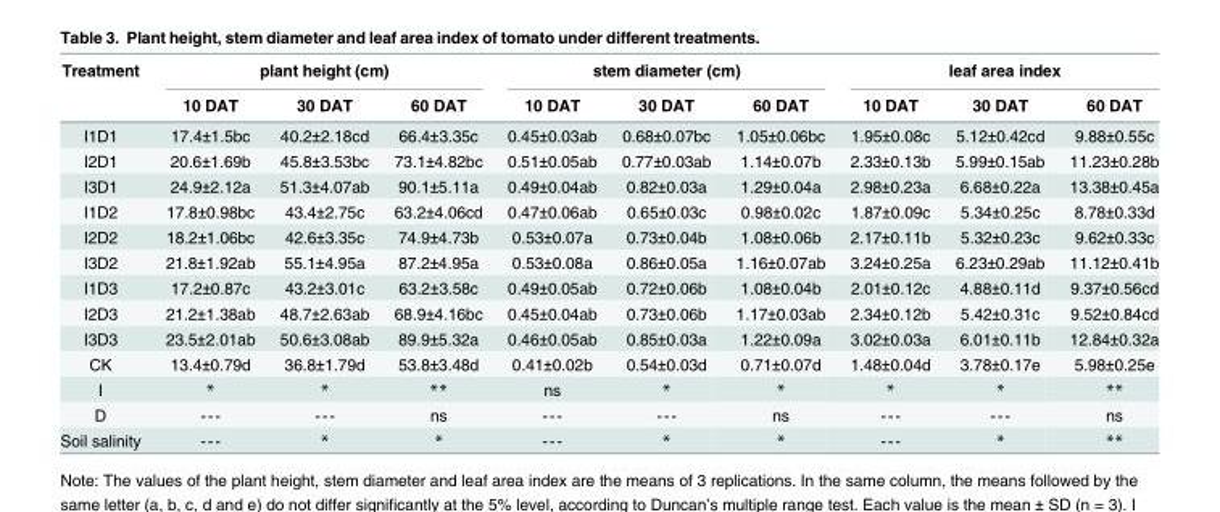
<table><thead><tr><td rowspan="2">Treatment</td><td colspan="3">plant height (cm)</td><td colspan="3">stem diameter (cm)</td><td colspan="3">leaf area index</td></tr><tr><td>10 DAT</td><td>30 DAT</td><td>60 DAT</td><td>10 DAT</td><td>30 DAT</td><td>60 DAT</td><td>10 DAT</td><td>30 DAT</td><td>60 DAT</td></tr></thead><tbody><tr><td>I1D1</td><td>17.4±1.5bc</td><td>40.2±2.18cd</td><td>66.4±3.35c</td><td>0.45±0.03ab</td><td>0.68±0.07bc</td><td>1.05±0.06bc</td><td>1.95±0.08c</td><td>5.12±0.42cd</td><td>9.88±0.55c</td></tr><tr><td>I2D1</td><td>20.6±1.69b</td><td>45.8±3.53bc</td><td>73.1±4.82bc</td><td>0.51±0.05ab</td><td>0.77±0.03ab</td><td>1.14±0.07b</td><td>2.33±0.13b</td><td>5.99±0.15ab</td><td>11.23±0.28b</td></tr><tr><td>I3D1</td><td>24.9±2.12a</td><td>51.3±4.07ab</td><td>90.1±5.11a</td><td>0.49±0.04ab</td><td>0.82±0.03a</td><td>1.29±0.04a</td><td>2.98±0.23a</td><td>6.68±0.22a</td><td>13.38±0.45a</td></tr><tr><td>I1D2</td><td>17.8±0.98bc</td><td>43.4±2.75c</td><td>63.2±4.06cd</td><td>0.47±0.06ab</td><td>0.65±0.03c</td><td>0.98±0.02c</td><td>1.87±0.09c</td><td>5.34±0.25c</td><td>8.78±0.33d</td></tr><tr><td>I2D2</td><td>18.2±1.06bc</td><td>42.6±3.35c</td><td>74.9±4.73b</td><td>0.53±0.07a</td><td>0.73±0.04b</td><td>1.08±0.06b</td><td>2.17±0.11b</td><td>5.32±0.23c</td><td>9.62±0.33c</td></tr><tr><td>I3D2</td><td>21.8±1.92ab</td><td>55.1±4.95a</td><td>87.2±4.95a</td><td>0.53±0.08a</td><td>0.86±0.05a</td><td>1.16±0.07ab</td><td>3.24±0.25a</td><td>6.23±0.29ab</td><td>11.12±0.41b</td></tr><tr><td>I1D3</td><td>17.2±0.87c</td><td>43.2±3.01c</td><td>63.2±3.58c</td><td>0.49±0.05ab</td><td>0.72±0.06b</td><td>1.08±0.04b</td><td>2.01±0.12c</td><td>4.88±0.11d</td><td>9.37±0.56cd</td></tr><tr><td>I2D3</td><td>21.2±1.38ab</td><td>48.7±2.63ab</td><td>68.9±4.16bc</td><td>0.45±0.04ab</td><td>0.73±0.06b</td><td>1.17±0.03ab</td><td>2.34±0.12b</td><td>5.42±0.31c</td><td>9.52±0.84cd</td></tr><tr><td>I3D3</td><td>23.5±2.01ab</td><td>50.6±3.08ab</td><td>89.9±5.32a</td><td>0.46±0.05ab</td><td>0.85±0.03a</td><td>1.22±0.09a</td><td>3.02±0.03a</td><td>6.01±0.11b</td><td>12.84±0.32a</td></tr><tr><td>CK</td><td>13.4±0.79d</td><td>36.8±1.79d</td><td>53.8±3.48d</td><td>0.41±0.02b</td><td>0.54±0.03d</td><td>0.71±0.07d</td><td>1.48±0.04d</td><td>3.78±0.17e</td><td>5.98±0.25e</td></tr><tr><td>I</td><td>*</td><td>*</td><td>**</td><td>ns</td><td>*</td><td>*</td><td>*</td><td>*</td><td>**</td></tr><tr><td>D</td><td>---</td><td>---</td><td>ns</td><td>---</td><td>---</td><td>ns</td><td>---</td><td>---</td><td>ns</td></tr><tr><td>Soil salinity</td><td>---</td><td>*</td><td>*</td><td>---</td><td>*</td><td>*</td><td>---</td><td>*</td><td>**</td></tr></tbody></table>